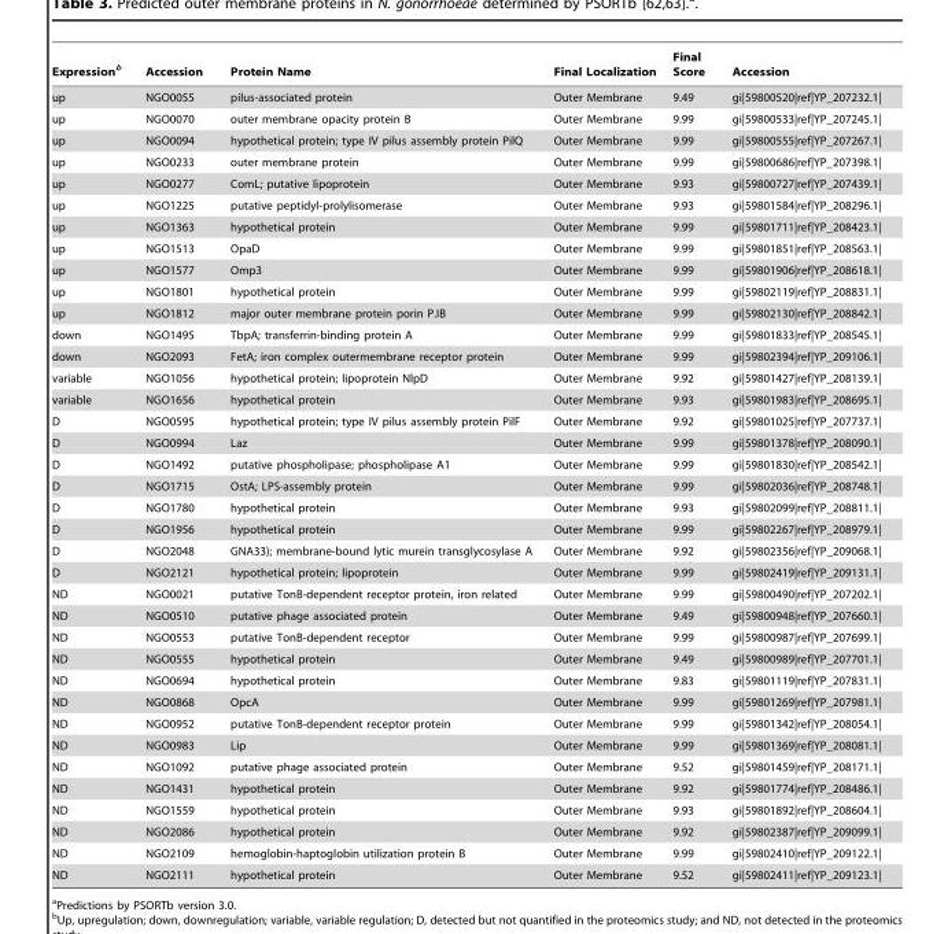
<table><thead><tr><td>Expression<sup>b</sup></td><td>Accession</td><td>Protein Name</td><td>Final Localization</td><td>Final Score</td><td>Accession</td></tr></thead><tbody><tr><td>up</td><td>NGO0055</td><td>pilus-associated protein</td><td>Outer Membrane</td><td>9.49</td><td>gi|59800520|ref|YP_207232.1|</td></tr><tr><td>up</td><td>NGO0070</td><td>outer membrane opacity protein B</td><td>Outer Membrane</td><td>9.99</td><td>gi|59800533|ref|YP_207245.1|</td></tr><tr><td>up</td><td>NGO0094</td><td>hypothetical protein; type IV pilus assembly protein PilQ</td><td>Outer Membrane</td><td>9.99</td><td>gi|59800555|ref|YP_207267.1|</td></tr><tr><td>up</td><td>NGO0233</td><td>outer membrane protein</td><td>Outer Membrane</td><td>9.99</td><td>gi|59800686|ref|YP_207398.1|</td></tr><tr><td>up</td><td>NGO0277</td><td>ComL; putative lipoprotein</td><td>Outer Membrane</td><td>9.93</td><td>gi|59800727|ref|YP_207439.1|</td></tr><tr><td>up</td><td>NGO1225</td><td>putative peptidyl-prolylisomerase</td><td>Outer Membrane</td><td>9.93</td><td>gi|59801584|ref|YP_208296.1|</td></tr><tr><td>up</td><td>NGO1363</td><td>hypothetical protein</td><td>Outer Membrane</td><td>9.99</td><td>gi|59801711|ref|YP_208423.1|</td></tr><tr><td>up</td><td>NGO1513</td><td>OpaD</td><td>Outer Membrane</td><td>9.99</td><td>gi|59801851|ref|YP_208563.1|</td></tr><tr><td>up</td><td>NGO1577</td><td>Omp3</td><td>Outer Membrane</td><td>9.99</td><td>gi|59801906|ref|YP_208618.1|</td></tr><tr><td>up</td><td>NGO1801</td><td>hypothetical protein</td><td>Outer Membrane</td><td>9.99</td><td>gi|59802119|ref|YP_208831.1|</td></tr><tr><td>up</td><td>NGO1812</td><td>major outer membrane protein porin P.IB</td><td>Outer Membrane</td><td>9.99</td><td>gi|59802130|ref|YP_208842.1|</td></tr><tr><td>down</td><td>NGO1495</td><td>TbpA; transferrin-binding protein A</td><td>Outer Membrane</td><td>9.99</td><td>gi|59801833|ref|YP_208545.1|</td></tr><tr><td>down</td><td>NGO2093</td><td>FetA; iron complex outermembrane receptor protein</td><td>Outer Membrane</td><td>9.99</td><td>gi|59802394|ref|YP_209106.1|</td></tr><tr><td>variable</td><td>NGO1056</td><td>hypothetical protein; lipoprotein NlpD</td><td>Outer Membrane</td><td>9.92</td><td>gi|59801427|ref|YP_208139.1|</td></tr><tr><td>variable</td><td>NGO1656</td><td>hypothetical protein</td><td>Outer Membrane</td><td>9.93</td><td>gi|59801983|ref|YP_208695.1|</td></tr><tr><td>D</td><td>NGO0595</td><td>hypothetical protein; type IV pilus assembly protein PilF</td><td>Outer Membrane</td><td>9.92</td><td>gi|59801025|ref|YP_207737.1|</td></tr><tr><td>D</td><td>NGO0994</td><td>Laz</td><td>Outer Membrane</td><td>9.99</td><td>gi|59801378|ref|YP_208090.1|</td></tr><tr><td>D</td><td>NGO1492</td><td>putative phospholipase; phospholipase A1</td><td>Outer Membrane</td><td>9.99</td><td>gi|59801830|ref|YP_208542.1|</td></tr><tr><td>D</td><td>NGO1715</td><td>OstA; LPS-assembly protein</td><td>Outer Membrane</td><td>9.99</td><td>gi|59802036|ref|YP_208748.1|</td></tr><tr><td>D</td><td>NGO1780</td><td>hypothetical protein</td><td>Outer Membrane</td><td>9.93</td><td>gi|59802099|ref|YP_208811.1|</td></tr><tr><td>D</td><td>NGO1956</td><td>hypothetical protein</td><td>Outer Membrane</td><td>9.99</td><td>gi|59802267|ref|YP_208979.1|</td></tr><tr><td>D</td><td>NGO2048</td><td>GNA33); membrane-bound lytic murein transglycosylase A</td><td>Outer Membrane</td><td>9.92</td><td>gi|59802356|ref|YP_209068.1|</td></tr><tr><td>D</td><td>NGO2121</td><td>hypothetical protein; lipoprotein</td><td>Outer Membrane</td><td>9.99</td><td>gi|59802419|ref|YP_209131.1|</td></tr><tr><td>ND</td><td>NGO0021</td><td>putative TonB-dependent receptor protein, iron related</td><td>Outer Membrane</td><td>9.99</td><td>gi|59800490|ref|YP_207202.1|</td></tr><tr><td>ND</td><td>NGO0510</td><td>putative phage associated protein</td><td>Outer Membrane</td><td>9.49</td><td>gi|59800948|ref|YP_207660.1|</td></tr><tr><td>ND</td><td>NGO0553</td><td>putative TonB-dependent receptor</td><td>Outer Membrane</td><td>9.99</td><td>gi|59800987|ref|YP_207699.1|</td></tr><tr><td>ND</td><td>NGO0555</td><td>hypothetical protein</td><td>Outer Membrane</td><td>9.49</td><td>gi|59800989|ref|YP_207701.1|</td></tr><tr><td>ND</td><td>NGO0694</td><td>hypothetical protein</td><td>Outer Membrane</td><td>9.83</td><td>gi|59801119|ref|YP_207831.1|</td></tr><tr><td>ND</td><td>NGO0868</td><td>OpcA</td><td>Outer Membrane</td><td>9.99</td><td>gi|59801269|ref|YP_207981.1|</td></tr><tr><td>ND</td><td>NGO0952</td><td>putative TonB-dependent receptor protein</td><td>Outer Membrane</td><td>9.99</td><td>gi|59801342|ref|YP_208054.1|</td></tr><tr><td>ND</td><td>NGO0983</td><td>Lip</td><td>Outer Membrane</td><td>9.99</td><td>gi|59801369|ref|YP_208081.1|</td></tr><tr><td>ND</td><td>NGO1092</td><td>putative phage associated protein</td><td>Outer Membrane</td><td>9.52</td><td>gi|59801459|ref|YP_208171.1|</td></tr><tr><td>ND</td><td>NGO1431</td><td>hypothetical protein</td><td>Outer Membrane</td><td>9.92</td><td>gi|59801774|ref|YP_208486.1|</td></tr><tr><td>ND</td><td>NGO1559</td><td>hypothetical protein</td><td>Outer Membrane</td><td>9.93</td><td>gi|59801892|ref|YP_208604.1|</td></tr><tr><td>ND</td><td>NGO2086</td><td>hypothetical protein</td><td>Outer Membrane</td><td>9.92</td><td>gi|59802387|ref|YP_209099.1|</td></tr><tr><td>ND</td><td>NGO2109</td><td>hemoglobin-haptoglobin utilization protein B</td><td>Outer Membrane</td><td>9.99</td><td>gi|59802410|ref|YP_209122.1|</td></tr><tr><td>ND</td><td>NGO2111</td><td>hypothetical protein</td><td>Outer Membrane</td><td>9.52</td><td>gi|59802411|ref|YP_209123.1|</td></tr></tbody></table>